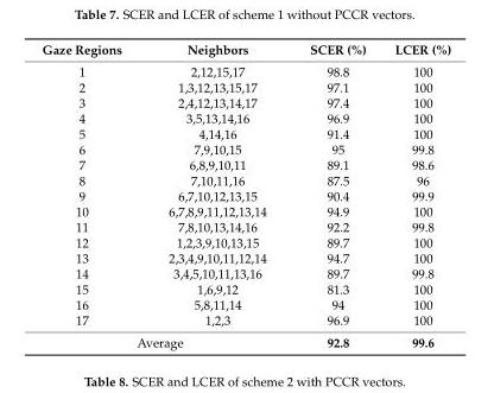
<table><thead><tr><td>Gaze Regions</td><td>Neighbors</td><td>SCER (%)</td><td>LCER (%)</td></tr></thead><tbody><tr><td>1</td><td>2,12,15,17</td><td>98.8</td><td>100</td></tr><tr><td>2</td><td>1,3,12,13,15,17</td><td>97.1</td><td>100</td></tr><tr><td>3</td><td>2,4,12,13,14,17</td><td>97.4</td><td>100</td></tr><tr><td>4</td><td>3,5,13,14,16</td><td>96.9</td><td>100</td></tr><tr><td>5</td><td>4,14,16</td><td>91.4</td><td>100</td></tr><tr><td>6</td><td>7,9,10,15</td><td>95</td><td>99.8</td></tr><tr><td>7</td><td>6,8,9,10,11</td><td>89.1</td><td>98.6</td></tr><tr><td>8</td><td>7,10,11,16</td><td>87.5</td><td>96</td></tr><tr><td>9</td><td>6,7,10,12,13,15</td><td>90.4</td><td>99.9</td></tr><tr><td>10</td><td>6,7,8,9,11,12,13,14</td><td>94.9</td><td>100</td></tr><tr><td>11</td><td>7,8,10,13,14,16</td><td>92.2</td><td>99.8</td></tr><tr><td>12</td><td>1,2,3,9,10,13,15</td><td>89.7</td><td>100</td></tr><tr><td>13</td><td>2,3,4,9,10,11,12,14</td><td>94.7</td><td>100</td></tr><tr><td>14</td><td>3,4,5,10,11,13,16</td><td>89.7</td><td>99.8</td></tr><tr><td>15</td><td>1,6,9,12</td><td>81.3</td><td>100</td></tr><tr><td>16</td><td>5,8,11,14</td><td>94</td><td>100</td></tr><tr><td>17</td><td>1,2,3</td><td>96.9</td><td>100</td></tr><tr><td colspan="2">Average</td><td>92.8</td><td>99.6</td></tr></tbody></table>